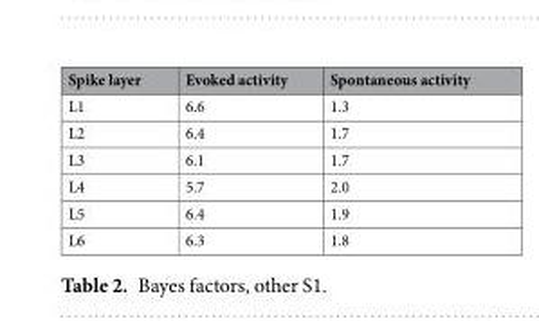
<table><thead><tr><td>Spike layer</td><td>Evoked activity</td><td>Spontaneous activity</td></tr></thead><tbody><tr><td>L1</td><td>6.6</td><td>1.3</td></tr><tr><td>L2</td><td>6.4</td><td>1.7</td></tr><tr><td>L3</td><td>6.1</td><td>1.7</td></tr><tr><td>L4</td><td>5.7</td><td>2.0</td></tr><tr><td>L5</td><td>6.4</td><td>1.9</td></tr><tr><td>L6</td><td>6.3</td><td>1.8</td></tr></tbody></table>